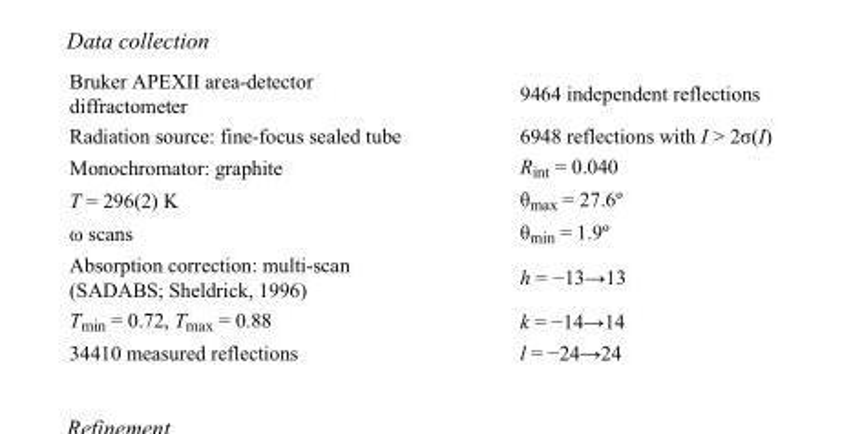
<table><tbody><tr><td>Bruker APEXII area-detector diffractometer</td><td>9464 independent reflections</td></tr><tr><td>Radiation source: fine-focus sealed tube</td><td>6948 reflections with I &gt; 2σ(I)</td></tr><tr><td>Monochromator: graphite</td><td>R<sub>int</sub> = 0.040</td></tr><tr><td>T = 296(2) K</td><td>θ<sub>max</sub> = 27.6º</td></tr><tr><td>ω scans</td><td>θ<sub>min</sub> = 1.9º</td></tr><tr><td>Absorption correction: multi-scan (SADABS; Sheldrick, 1996)</td><td>h = −13→13</td></tr><tr><td>T<sub>min</sub> = 0.72, T<sub>max</sub> = 0.88</td><td>k = −14→14</td></tr><tr><td>34410 measured reflections</td><td>l = −24→24</td></tr></tbody></table>